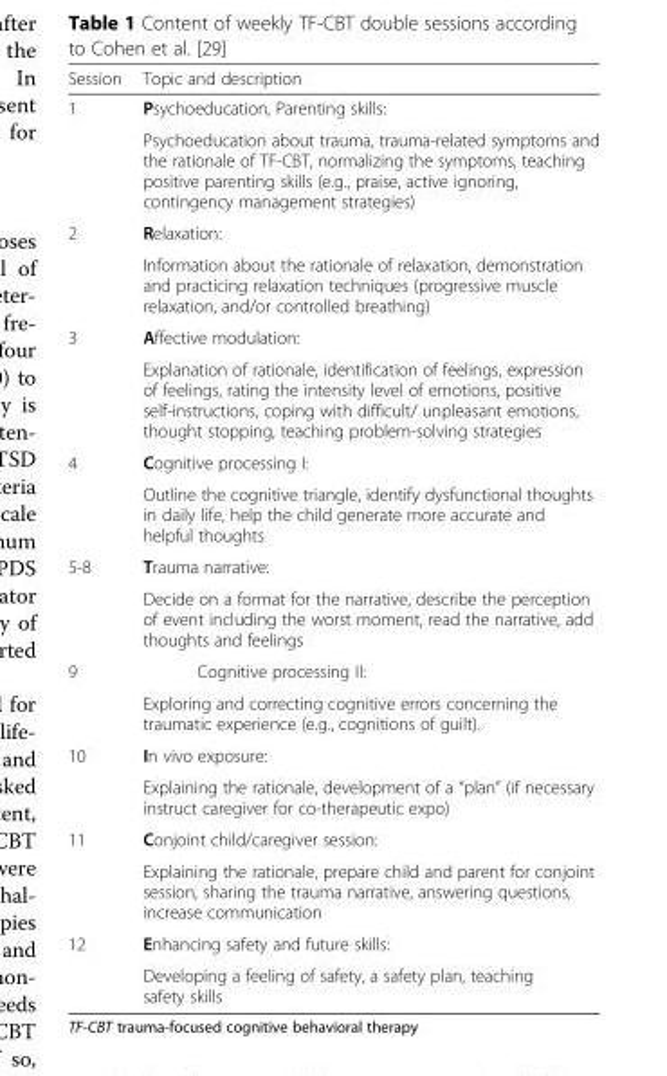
<table><thead><tr><td>Session</td><td>Topic and description</td></tr></thead><tbody><tr><td rowspan="2">1</td><td>Psychoeducation, Parenting skills:</td></tr><tr><td>Psychoeducation about trauma, trauma-related symptoms and the rationale of TF-CBT, normalizing the symptoms, teaching positive parenting skills (e.g., praise, active ignoring, contingency management strategies)</td></tr><tr><td rowspan="2">2</td><td>Relaxation:</td></tr><tr><td>Information about the rationale of relaxation, demonstration and practicing relaxation techniques (progressive muscle relaxation, and/or controlled breathing)</td></tr><tr><td rowspan="2">3</td><td>Affective modulation:</td></tr><tr><td>Explanation of rationale, identification of feelings, expression of feelings, rating the intensity level of emotions, positive self-instructions, coping with difficult/ unpleasant emotions, thought stopping, teaching problem-solving strategies</td></tr><tr><td rowspan="2">4</td><td>Cognitive processing I:</td></tr><tr><td>Outline the cognitive triangle, identify dysfunctional thoughts in daily life, help the child generate more accurate and helpful thoughts</td></tr><tr><td rowspan="2">5-8</td><td>Trauma narrative:</td></tr><tr><td>Decide on a format for the narrative, describe the perception of event including the worst moment, read the narrative, add thoughts and feelings</td></tr><tr><td rowspan="2">9</td><td>Cognitive processing II:</td></tr><tr><td>Exploring and correcting cognitive errors concerning the traumatic experience (e.g., cognitions of guilt).</td></tr><tr><td rowspan="2">10</td><td>In vivo exposure:</td></tr><tr><td>Explaining the rationale, development of a “plan” (if necessary instruct caregiver for co-therapeutic expo)</td></tr><tr><td rowspan="2">11</td><td>Conjoint child/caregiver session:</td></tr><tr><td>Explaining the rationale, prepare child and parent for conjoint session, sharing the trauma narrative, answering questions, increase communication</td></tr><tr><td rowspan="2">12</td><td>Enhancing safety and future skills:</td></tr><tr><td>Developing a feeling of safety, a safety plan, teaching safety skills</td></tr></tbody></table>